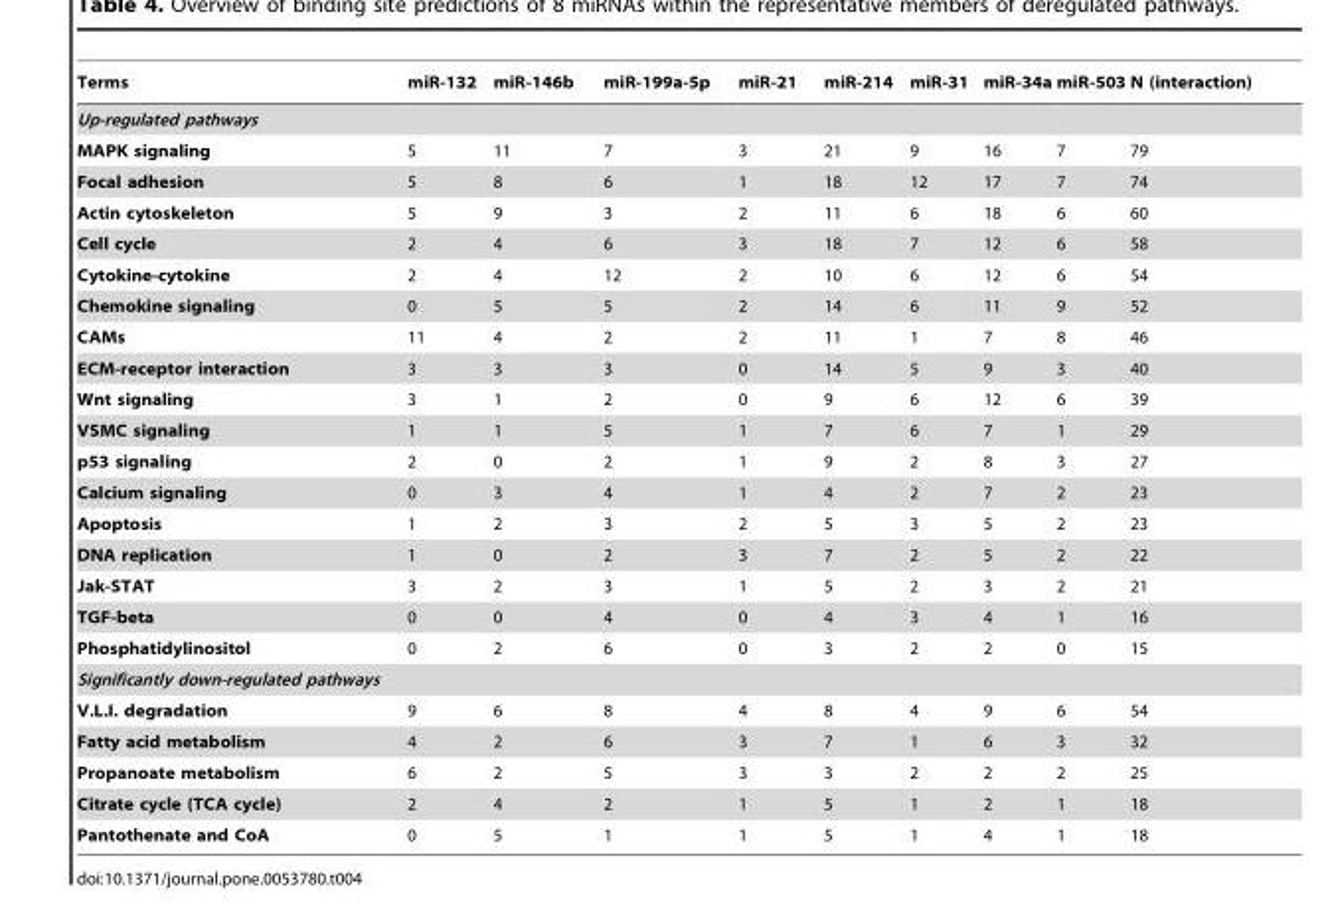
<table><thead><tr><td>Terms</td><td>miR-132</td><td>miR-146b</td><td>miR-199a-5p</td><td>miR-21</td><td>miR-214</td><td>miR-31</td><td>miR-34a</td><td>miR-503</td><td>N (interaction)</td></tr></thead><tbody><tr><td colspan="10">Up-regulated pathways</td></tr><tr><td>MAPK signaling</td><td>5</td><td>11</td><td>7</td><td>3</td><td>21</td><td>9</td><td>16</td><td>7</td><td>79</td></tr><tr><td>Focal adhesion</td><td>5</td><td>8</td><td>6</td><td>1</td><td>18</td><td>12</td><td>17</td><td>7</td><td>74</td></tr><tr><td>Actin cytoskeleton</td><td>5</td><td>9</td><td>3</td><td>2</td><td>11</td><td>6</td><td>18</td><td>6</td><td>60</td></tr><tr><td>Cell cycle</td><td>2</td><td>4</td><td>6</td><td>3</td><td>18</td><td>7</td><td>12</td><td>6</td><td>58</td></tr><tr><td>Cytokine-cytokine</td><td>2</td><td>4</td><td>12</td><td>2</td><td>10</td><td>6</td><td>12</td><td>6</td><td>54</td></tr><tr><td>Chemokine signaling</td><td>0</td><td>5</td><td>5</td><td>2</td><td>14</td><td>6</td><td>11</td><td>9</td><td>52</td></tr><tr><td>CAMs</td><td>11</td><td>4</td><td>2</td><td>2</td><td>11</td><td>1</td><td>7</td><td>8</td><td>46</td></tr><tr><td>ECM-receptor interaction</td><td>3</td><td>3</td><td>3</td><td>0</td><td>14</td><td>5</td><td>9</td><td>3</td><td>40</td></tr><tr><td>Wnt signaling</td><td>3</td><td>1</td><td>2</td><td>0</td><td>9</td><td>6</td><td>12</td><td>6</td><td>39</td></tr><tr><td>VSMC signaling</td><td>1</td><td>1</td><td>5</td><td>1</td><td>7</td><td>6</td><td>7</td><td>1</td><td>29</td></tr><tr><td>p53 signaling</td><td>2</td><td>0</td><td>2</td><td>1</td><td>9</td><td>2</td><td>8</td><td>3</td><td>27</td></tr><tr><td>Calcium signaling</td><td>0</td><td>3</td><td>4</td><td>1</td><td>4</td><td>2</td><td>7</td><td>2</td><td>23</td></tr><tr><td>Apoptosis</td><td>1</td><td>2</td><td>3</td><td>2</td><td>5</td><td>3</td><td>5</td><td>2</td><td>23</td></tr><tr><td>DNA replication</td><td>1</td><td>0</td><td>2</td><td>3</td><td>7</td><td>2</td><td>5</td><td>2</td><td>22</td></tr><tr><td>Jak-STAT</td><td>3</td><td>2</td><td>3</td><td>1</td><td>5</td><td>2</td><td>3</td><td>2</td><td>21</td></tr><tr><td>TGF-beta</td><td>0</td><td>0</td><td>4</td><td>0</td><td>4</td><td>3</td><td>4</td><td>1</td><td>16</td></tr><tr><td>Phosphatidylinositol</td><td>0</td><td>2</td><td>6</td><td>0</td><td>3</td><td>2</td><td>2</td><td>0</td><td>15</td></tr><tr><td colspan="10">Significantly down-regulated pathways</td></tr><tr><td>V.L.I. degradation</td><td>9</td><td>6</td><td>8</td><td>4</td><td>8</td><td>4</td><td>9</td><td>6</td><td>54</td></tr><tr><td>Fatty acid metabolism</td><td>4</td><td>2</td><td>6</td><td>3</td><td>7</td><td>1</td><td>6</td><td>3</td><td>32</td></tr><tr><td>Propanoate metabolism</td><td>6</td><td>2</td><td>5</td><td>3</td><td>3</td><td>2</td><td>2</td><td>2</td><td>25</td></tr><tr><td>Citrate cycle (TCA cycle)</td><td>2</td><td>4</td><td>2</td><td>1</td><td>5</td><td>1</td><td>2</td><td>1</td><td>18</td></tr><tr><td>Pantothenate and CoA</td><td>0</td><td>5</td><td>1</td><td>1</td><td>5</td><td>1</td><td>4</td><td>1</td><td>18</td></tr></tbody></table>